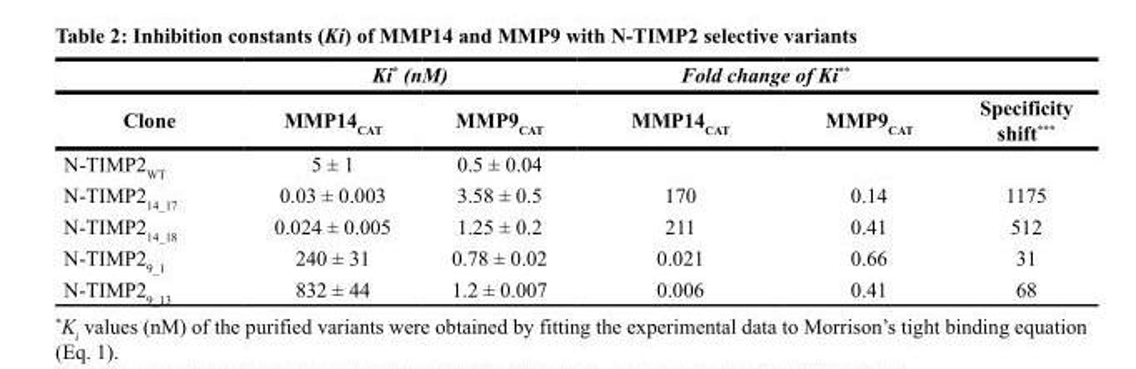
<table><thead><tr><td rowspan="2">Clone</td><td colspan="2">Ki* (nM)</td><td colspan="2">Fold change of Ki**</td><td rowspan="2">Specificity shift***</td></tr><tr><td>MMP14<sub>CAT</sub></td><td>MMP9<sub>CAT</sub></td><td>MMP14<sub>CAT</sub></td><td>MMP9<sub>CAT</sub></td></tr></thead><tbody><tr><td>N-TIMP2<sub>WT</sub></td><td>5 ± 1</td><td>0.5 ± 0.04</td><td></td><td></td><td></td></tr><tr><td>N-TIMP2<sub>14_17</sub></td><td>0.03 ± 0.003</td><td>3.58 ± 0.5</td><td>170</td><td>0.14</td><td>1175</td></tr><tr><td>N-TIMP2<sub>14_18</sub></td><td>0.024 ± 0.005</td><td>1.25 ± 0.2</td><td>211</td><td>0.41</td><td>512</td></tr><tr><td>N-TIMP2<sub>9_1</sub></td><td>240 ± 31</td><td>0.78 ± 0.02</td><td>0.021</td><td>0.66</td><td>31</td></tr><tr><td>N-TIMP2<sub>9_13</sub></td><td>832 ± 44</td><td>1.2 ± 0.007</td><td>0.006</td><td>0.41</td><td>68</td></tr></tbody></table>